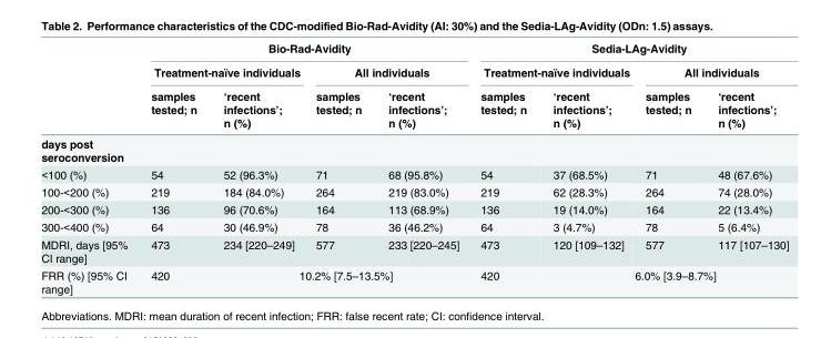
<table><thead><tr><td rowspan="3"></td><td colspan="4">Bio-Rad-Avidity</td><td colspan="4">Sedia-LAg-Avidity</td></tr><tr><td colspan="2">Treatment-naïve individuals</td><td colspan="2">All individuals</td><td colspan="2">Treatment-naïve individuals</td><td colspan="2">All individuals</td></tr><tr><td>samples tested; n</td><td>‘recent infections’; n (%)</td><td>samples tested; n</td><td>‘recent infections’; n (%)</td><td>samples tested; n</td><td>‘recent infections’; n (%)</td><td>samples tested; n</td><td>‘recent infections’; n (%)</td></tr></thead><tbody><tr><td colspan="9">days post seroconversion</td></tr><tr><td>&lt;100 (%)</td><td>54</td><td>52 (96.3%)</td><td>71</td><td>68 (95.8%)</td><td>54</td><td>37 (68.5%)</td><td>71</td><td>48 (67.6%)</td></tr><tr><td>100-&lt;200 (%)</td><td>219</td><td>184 (84.0%)</td><td>264</td><td>219 (83.0%)</td><td>219</td><td>62 (28.3%)</td><td>264</td><td>74 (28.0%)</td></tr><tr><td>200-&lt;300 (%)</td><td>136</td><td>96 (70.6%)</td><td>164</td><td>113 (68.9%)</td><td>136</td><td>19 (14.0%)</td><td>164</td><td>22 (13.4%)</td></tr><tr><td>300-&lt;400 (%)</td><td>64</td><td>30 (46.9%)</td><td>78</td><td>36 (46.2%)</td><td>64</td><td>3 (4.7%)</td><td>78</td><td>5 (6.4%)</td></tr><tr><td>MDRI, days [95% CI range]</td><td>473</td><td>234 [220–249]</td><td>577</td><td>233 [220–245]</td><td>473</td><td>120 [109–132]</td><td>577</td><td>117 [107–130]</td></tr><tr><td>FRR (%) [95% CI range]</td><td>420</td><td colspan="3">10.2% [7.5–13.5%]</td><td>420</td><td colspan="3">6.0% [3.9–8.7%]</td></tr></tbody></table>